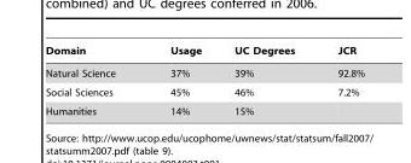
<table><thead><tr><td>Domain</td><td>Usage</td><td>UC Degrees</td><td>JCR</td></tr></thead><tbody><tr><td>Natural Science</td><td>37%</td><td>39%</td><td>92.8%</td></tr><tr><td>Social Sciences</td><td>45%</td><td>46%</td><td>7.2%</td></tr><tr><td>Humanities</td><td>14%</td><td>15%</td><td></td></tr></tbody></table>